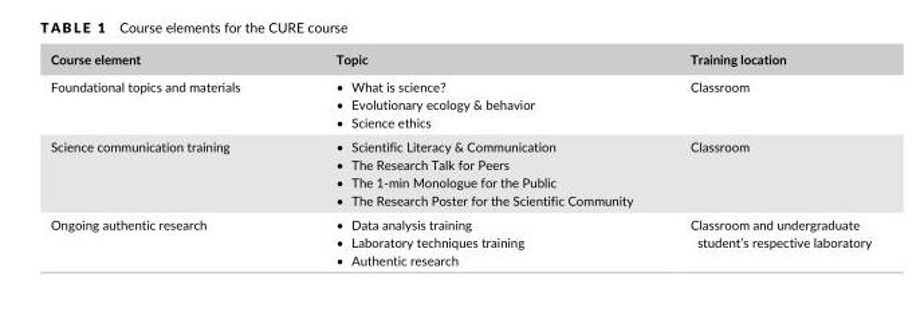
<table><thead><tr><td>Course element</td><td>Topic</td><td>Training location</td></tr></thead><tbody><tr><td>Foundational topics and materials</td><td>• What is science? • Evolutionary ecology &amp; behavior • Science ethics</td><td>Classroom</td></tr><tr><td>Science communication training</td><td>• Scientific Literacy &amp; Communication • The Research Talk for Peers • The 1-min Monologue for the Public • The Research Poster for the Scientific Community</td><td>Classroom</td></tr><tr><td>Ongoing authentic research</td><td>• Data analysis training • Laboratory techniques training • Authentic research</td><td>Classroom and undergraduate student’s respective laboratory</td></tr></tbody></table>